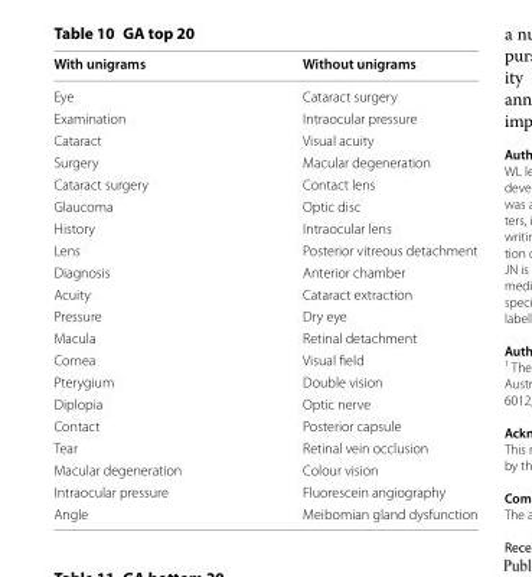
<table><thead><tr><td>With unigrams</td><td>Without unigrams</td></tr></thead><tbody><tr><td>Eye</td><td>Cataract surgery</td></tr><tr><td>Examination</td><td>Intraocular pressure</td></tr><tr><td>Cataract</td><td>Visual acuity</td></tr><tr><td>Surgery</td><td>Macular degeneration</td></tr><tr><td>Cataract surgery</td><td>Contact lens</td></tr><tr><td>Glaucoma</td><td>Optic disc</td></tr><tr><td>History</td><td>Intraocular lens</td></tr><tr><td>Lens</td><td>Posterior vitreous detachment</td></tr><tr><td>Diagnosis</td><td>Anterior chamber</td></tr><tr><td>Acuity</td><td>Cataract extraction</td></tr><tr><td>Pressure</td><td>Dry eye</td></tr><tr><td>Macula</td><td>Retinal detachment</td></tr><tr><td>Cornea</td><td>Visual field</td></tr><tr><td>Pterygium</td><td>Double vision</td></tr><tr><td>Diplopia</td><td>Optic nerve</td></tr><tr><td>Contact</td><td>Posterior capsule</td></tr><tr><td>Tear</td><td>Retinal vein occlusion</td></tr><tr><td>Macular degeneration</td><td>Colour vision</td></tr><tr><td>Intraocular pressure</td><td>Fluorescein angiography</td></tr><tr><td>Angle</td><td>Meibomian gland dysfunction</td></tr></tbody></table>